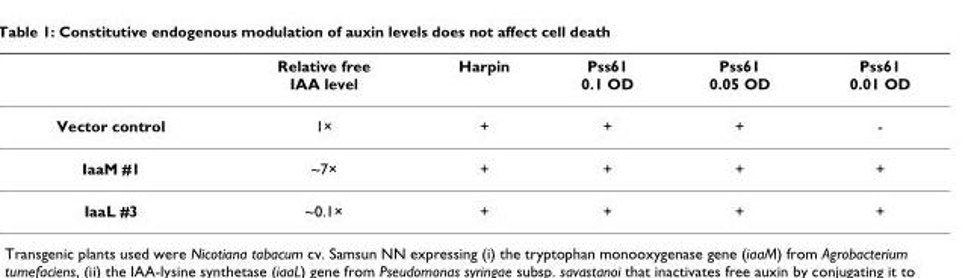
<table><thead><tr><td></td><td>Relative free IAA level</td><td>Harpin</td><td>Pss61 0.1 OD</td><td>Pss61 0.05 OD</td><td>Pss61 0.01 OD</td></tr></thead><tbody><tr><td>Vector control</td><td>1×</td><td>+</td><td>+</td><td>+</td><td>-</td></tr><tr><td>IaaM #1</td><td>~7×</td><td>+</td><td>+</td><td>+</td><td>+</td></tr><tr><td>IaaL #3</td><td>~0.1×</td><td>+</td><td>+</td><td>+</td><td>+</td></tr></tbody></table>